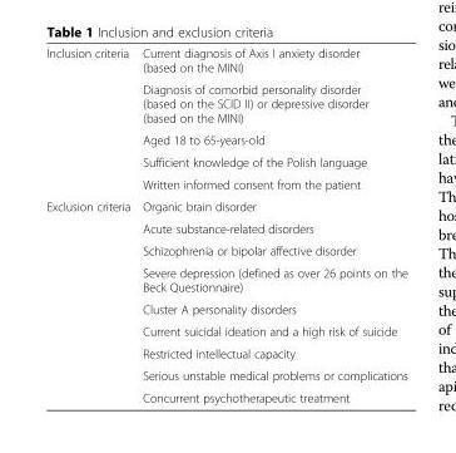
<table><tbody><tr><td rowspan="5">Inclusion criteria</td><td>Current diagnosis of Axis I anxiety disorder (based on the MINI)</td></tr><tr><td>Diagnosis of comorbid personality disorder (based on the SCID II) or depressive disorder (based on the MINI)</td></tr><tr><td>Aged 18 to 65-years-old</td></tr><tr><td>Sufficient knowledge of the Polish language</td></tr><tr><td>Written informed consent from the patient</td></tr><tr><td rowspan="9">Exclusion criteria</td><td>Organic brain disorder</td></tr><tr><td>Acute substance-related disorders</td></tr><tr><td>Schizophrenia or bipolar affective disorder</td></tr><tr><td>Severe depression (defined as over 26 points on the Beck Questionnaire)</td></tr><tr><td>Cluster A personality disorders</td></tr><tr><td>Current suicidal ideation and a high risk of suicide</td></tr><tr><td>Restricted intellectual capacity</td></tr><tr><td>Serious unstable medical problems or complications</td></tr><tr><td>Concurrent psychotherapeutic treatment</td></tr></tbody></table>